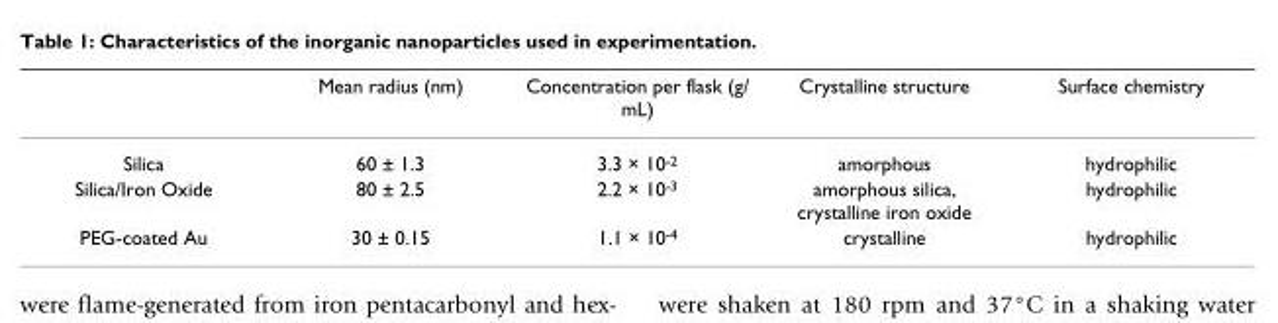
<table><thead><tr><td></td><td>Mean radius (nm)</td><td>Concentration per flask (g/ mL)</td><td>Crystalline structure</td><td>Surface chemistry</td></tr></thead><tbody><tr><td>Silica</td><td>60 ± 1.3</td><td>3.3 × 10<sup>-2</sup></td><td>amorphous</td><td>hydrophilic</td></tr><tr><td>Silica/Iron Oxide</td><td>80 ± 2.5</td><td>2.2 × 10<sup>-3</sup></td><td>amorphous silica, crystalline iron oxide</td><td>hydrophilic</td></tr><tr><td>PEG-coated Au</td><td>30 ± 0.15</td><td>1.1 × 10<sup>-4</sup></td><td>crystalline</td><td>hydrophilic</td></tr></tbody></table>